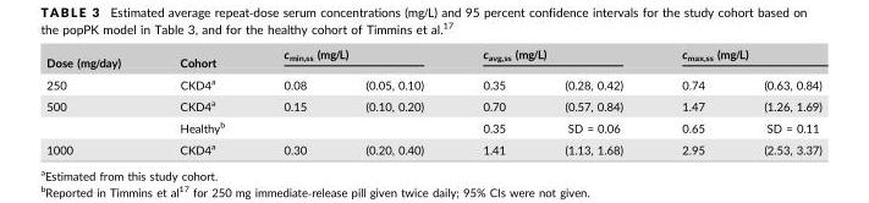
<table><thead><tr><td rowspan="2">Dose (mg/day) 250</td><td rowspan="2">Cohort CKD4<sup>a</sup></td><td colspan="2">c<sub>min,ss</sub> (mg/L)</td><td colspan="2">c<sub>avg,ss</sub> (mg/L)</td><td colspan="2">c<sub>max,ss</sub> (mg/L)</td></tr><tr><td>0.08</td><td>(0.05, 0.10)</td><td>0.35</td><td>(0.28, 0.42)</td><td>0.74</td><td>(0.63, 0.84)</td></tr></thead><tbody><tr><td rowspan="2">500</td><td>CKD4<sup>a</sup></td><td>0.15</td><td>(0.10, 0.20)</td><td>0.70</td><td>(0.57, 0.84)</td><td>1.47</td><td>(1.26, 1.69)</td></tr><tr><td>Healthy<sup>b</sup></td><td></td><td></td><td>0.35</td><td>SD = 0.06</td><td>0.65</td><td>SD = 0.11</td></tr><tr><td>1000</td><td>CKD4<sup>a</sup></td><td>0.30</td><td>(0.20, 0.40)</td><td>1.41</td><td>(1.13, 1.68)</td><td>2.95</td><td>(2.53, 3.37)</td></tr></tbody></table>